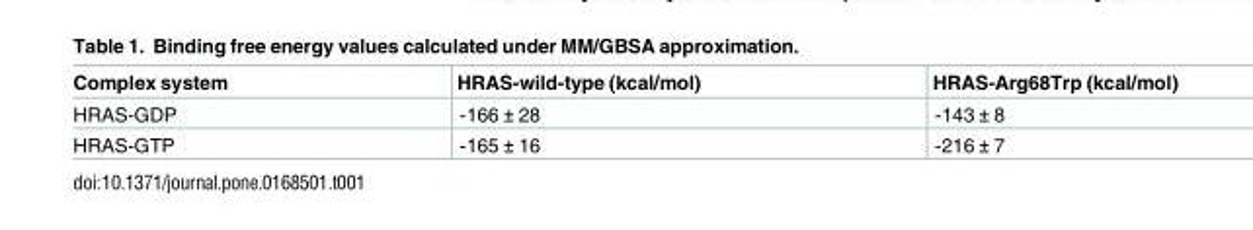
<table><thead><tr><td>Complex system</td><td>HRAS-wild-type (kcal/mol)</td><td>HRAS-Arg68Trp (kcal/mol)</td></tr></thead><tbody><tr><td>HRAS-GDP</td><td>-166 ± 28</td><td>-143 ± 8</td></tr><tr><td>HRAS-GTP</td><td>-165 ± 16</td><td>-216 ± 7</td></tr></tbody></table>